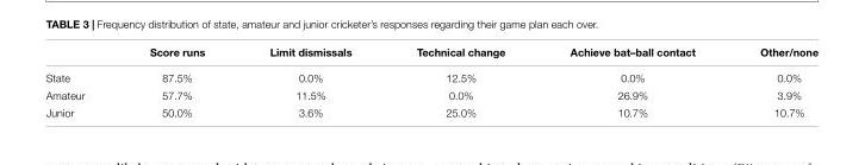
<table><thead><tr><td></td><td>Score runs</td><td>Limit dismissals</td><td>Technical change</td><td>Achieve bat–ball contact</td><td>Other/none</td></tr></thead><tbody><tr><td>State</td><td>87.5%</td><td>0.0%</td><td>12.5%</td><td>0.0%</td><td>0.0%</td></tr><tr><td>Amateur</td><td>57.7%</td><td>11.5%</td><td>0.0%</td><td>26.9%</td><td>3.9%</td></tr><tr><td>Junior</td><td>50.0%</td><td>3.6%</td><td>25.0%</td><td>10.7%</td><td>10.7%</td></tr></tbody></table>